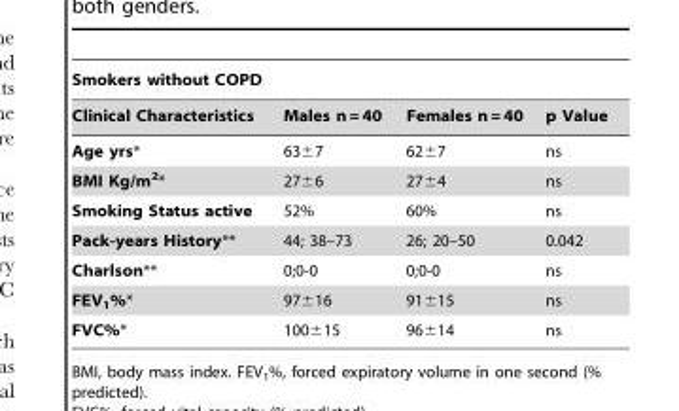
<table><thead><tr><td colspan="4">Smokers without COPD</td></tr><tr><td>Clinical Characteristics</td><td>Males n = 40</td><td>Females n = 40</td><td>p Value</td></tr></thead><tbody><tr><td>Age yrs*</td><td>63±7</td><td>62±7</td><td>ns</td></tr><tr><td>BMI Kg/m<sup>2</sup>*</td><td>27±6</td><td>27±4</td><td>ns</td></tr><tr><td>Smoking Status active</td><td>52%</td><td>60%</td><td>ns</td></tr><tr><td>Pack-years History**</td><td>44; 38–73</td><td>26; 20–50</td><td>0.042</td></tr><tr><td>Charlson**</td><td>0;0-0</td><td>0;0-0</td><td>ns</td></tr><tr><td>FEV<sub>1</sub>%*</td><td>97±16</td><td>91±15</td><td>ns</td></tr><tr><td>FVC%*</td><td>100±15</td><td>96±14</td><td>ns</td></tr></tbody></table>